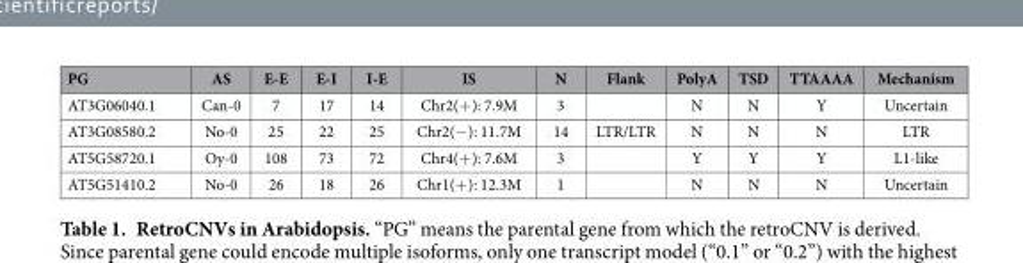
<table><thead><tr><td>PG</td><td>AS</td><td>E-E</td><td>E-I</td><td>I-E</td><td>IS</td><td>N</td><td>Flank</td><td>PolyA</td><td>TSD</td><td>TTAAAA</td><td>Mechanism</td></tr></thead><tbody><tr><td>AT3G06040.1</td><td>Can-0</td><td>7</td><td>17</td><td>14</td><td>Chr2(+ ): 7.9M</td><td>3</td><td></td><td>N</td><td>N</td><td>Y</td><td>Uncertain</td></tr><tr><td>AT3G08580.2</td><td>No-0</td><td>25</td><td>22</td><td>25</td><td>Chr2(− ): 11.7M</td><td>14</td><td>LTR/LTR</td><td>N</td><td>N</td><td>N</td><td>LTR</td></tr><tr><td>AT5G58720.1</td><td>Oy-0</td><td>108</td><td>73</td><td>72</td><td>Chr4(+ ): 7.6M</td><td>3</td><td></td><td>Y</td><td>Y</td><td>Y</td><td>L1-like</td></tr><tr><td>AT5G51410.2</td><td>No-0</td><td>26</td><td>18</td><td>26</td><td>Chr1(+ ): 12.3M</td><td>1</td><td></td><td>N</td><td>N</td><td>N</td><td>Uncertain</td></tr></tbody></table>